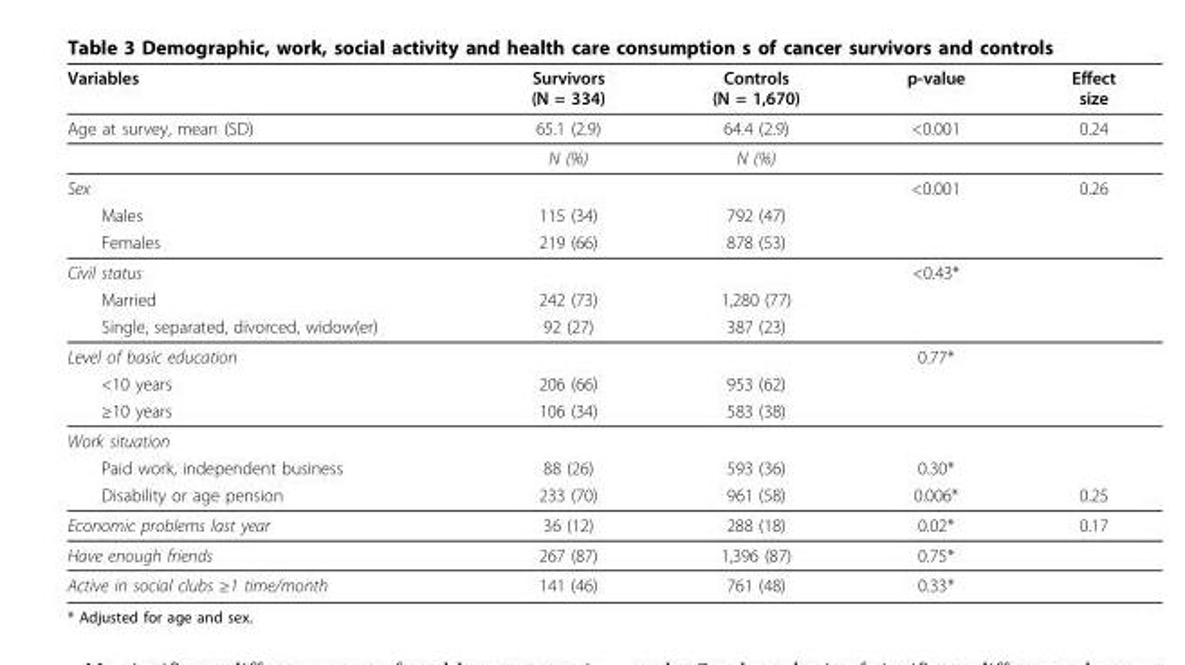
<table><thead><tr><td>Variables</td><td>Survivors (N = 334)</td><td>Controls (N = 1,670)</td><td>p-value</td><td>Effect size</td></tr></thead><tbody><tr><td rowspan="2">Age at survey, mean (SD)</td><td>65.1 (2.9)</td><td>64.4 (2.9)</td><td>&lt;0.001</td><td>0.24</td></tr><tr><td>N (%)</td><td>N (%)</td><td></td><td></td></tr><tr><td>Sex</td><td></td><td></td><td>&lt;0.001</td><td>0.26</td></tr><tr><td>Males</td><td>115 (34)</td><td>792 (47)</td><td></td><td></td></tr><tr><td>Females</td><td>219 (66)</td><td>878 (53)</td><td></td><td></td></tr><tr><td>Civil status</td><td></td><td></td><td>&lt;0.43*</td><td></td></tr><tr><td>Married</td><td>242 (73)</td><td>1,280 (77)</td><td></td><td></td></tr><tr><td>Single, separated, divorced, widow(er)</td><td>92 (27)</td><td>387 (23)</td><td></td><td></td></tr><tr><td>Level of basic education</td><td></td><td></td><td>0.77*</td><td></td></tr><tr><td>&lt;10 years</td><td>206 (66)</td><td>953 (62)</td><td></td><td></td></tr><tr><td>≥10 years</td><td>106 (34)</td><td>583 (38)</td><td></td><td></td></tr><tr><td colspan="5">Work situation</td></tr><tr><td>Paid work, independent business</td><td>88 (26)</td><td>593 (36)</td><td>0.30*</td><td></td></tr><tr><td>Disability or age pension</td><td>233 (70)</td><td>961 (58)</td><td>0.006*</td><td>0.25</td></tr><tr><td>Economic problems last year</td><td>36 (12)</td><td>288 (18)</td><td>0.02*</td><td>0.17</td></tr><tr><td>Have enough friends</td><td>267 (87)</td><td>1,396 (87)</td><td>0.75*</td><td></td></tr><tr><td>Active in social clubs ≥1 time/month</td><td>141 (46)</td><td>761 (48)</td><td>0.33*</td><td></td></tr></tbody></table>